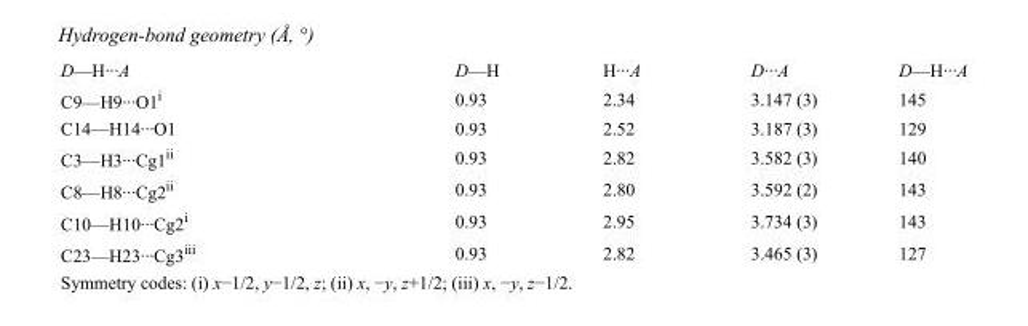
<table><tbody><tr><td>D—H···A</td><td>D—H</td><td>H···A</td><td>D···A</td><td>D—H···A</td></tr><tr><td>C9—H9···O1<sup>i</sup></td><td>0.93</td><td>2.34</td><td>3.147 (3)</td><td>145</td></tr><tr><td>C14—H14···O1</td><td>0.93</td><td>2.52</td><td>3.187 (3)</td><td>129</td></tr><tr><td>C3—H3···Cg1<sup>ii</sup></td><td>0.93</td><td>2.82</td><td>3.582 (3)</td><td>140</td></tr><tr><td>C8—H8···Cg2<sup>ii</sup></td><td>0.93</td><td>2.80</td><td>3.592 (2)</td><td>143</td></tr><tr><td>C10—H10···Cg2<sup>i</sup></td><td>0.93</td><td>2.95</td><td>3.734 (3)</td><td>143</td></tr><tr><td>C23—H23···Cg3<sup>iii</sup></td><td>0.93</td><td>2.82</td><td>3.465 (3)</td><td>127</td></tr></tbody></table>